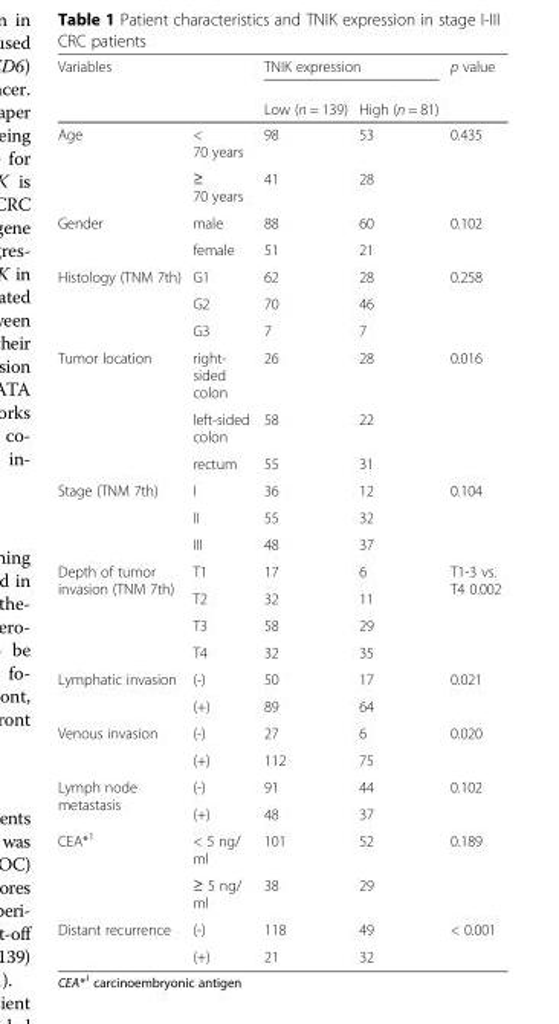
<table><thead><tr><td rowspan="2">Variables</td><td rowspan="2"></td><td colspan="2">TNIK expression</td><td rowspan="2">p value</td></tr><tr><td>Low (n = 139)</td><td>High (n = 81)</td></tr></thead><tbody><tr><td rowspan="2">Age</td><td>&lt; 70 years</td><td>98</td><td>53</td><td rowspan="2">0.435</td></tr><tr><td>≥ 70 years</td><td>41</td><td>28</td></tr><tr><td rowspan="2">Gender</td><td>male</td><td>88</td><td>60</td><td rowspan="2">0.102</td></tr><tr><td>female</td><td>51</td><td>21</td></tr><tr><td rowspan="3">Histology (TNM 7th)</td><td>G1</td><td>62</td><td>28</td><td rowspan="3">0.258</td></tr><tr><td>G2</td><td>70</td><td>46</td></tr><tr><td>G3</td><td>7</td><td>7</td></tr><tr><td rowspan="3">Tumor location</td><td>right- sided colon</td><td>26</td><td>28</td><td rowspan="3">0.016</td></tr><tr><td>left-sided colon</td><td>58</td><td>22</td></tr><tr><td>rectum</td><td>55</td><td>31</td></tr><tr><td rowspan="3">Stage (TNM 7th)</td><td>I</td><td>36</td><td>12</td><td rowspan="3">0.104</td></tr><tr><td>II</td><td>55</td><td>32</td></tr><tr><td>III</td><td>48</td><td>37</td></tr><tr><td rowspan="4">Depth of tumor invasion (TNM 7th)</td><td>T1</td><td>17</td><td>6</td><td rowspan="4">T1-3 vs. T4 0.002</td></tr><tr><td>T2</td><td>32</td><td>11</td></tr><tr><td>T3</td><td>58</td><td>29</td></tr><tr><td>T4</td><td>32</td><td>35</td></tr><tr><td rowspan="2">Lymphatic invasion</td><td>(-)</td><td>50</td><td>17</td><td rowspan="2">0.021</td></tr><tr><td>(+)</td><td>89</td><td>64</td></tr><tr><td rowspan="2">Venous invasion</td><td>(-)</td><td>27</td><td>6</td><td rowspan="2">0.020</td></tr><tr><td>(+)</td><td>112</td><td>75</td></tr><tr><td rowspan="2">Lymph node metastasis</td><td>(-)</td><td>91</td><td>44</td><td rowspan="2">0.102</td></tr><tr><td>(+)</td><td>48</td><td>37</td></tr><tr><td rowspan="2">CEA*<sup>1</sup></td><td>&lt; 5 ng/ ml</td><td>101</td><td>52</td><td rowspan="2">0.189</td></tr><tr><td>≥ 5 ng/ ml</td><td>38</td><td>29</td></tr><tr><td rowspan="2">Distant recurrence</td><td>(-)</td><td>118</td><td>49</td><td rowspan="2">&lt; 0.001</td></tr><tr><td>(+)</td><td>21</td><td>32</td></tr></tbody></table>